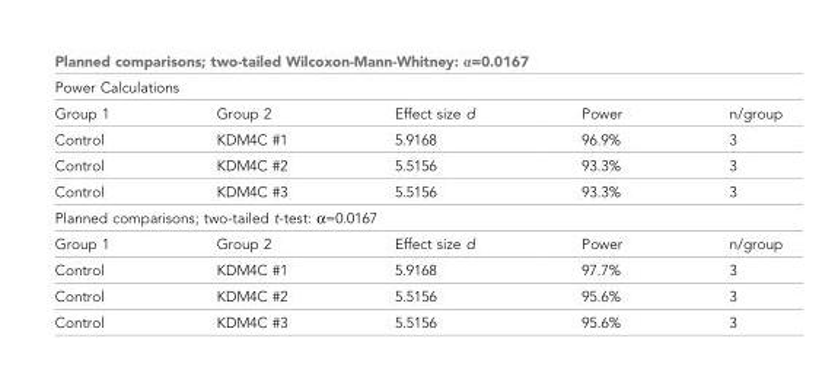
<table><thead><tr><td rowspan="2" colspan="5">Planned comparisons; two-tailed Wilcoxon-Mann-Whitney: α=0.0167 Power Calculations</td></tr><tr></tr><tr><td>Group 1</td><td>Group 2</td><td>Effect size d</td><td>Power</td><td>n/group</td></tr></thead><tbody><tr><td>Control</td><td>KDM4C #1</td><td>5.9168</td><td>96.9%</td><td>3</td></tr><tr><td>Control</td><td>KDM4C #2</td><td>5.5156</td><td>93.3%</td><td>3</td></tr><tr><td>Control</td><td>KDM4C #3</td><td>5.5156</td><td>93.3%</td><td>3</td></tr><tr><td colspan="5">Planned comparisons; two-tailed t-test: α=0.0167</td></tr><tr><td>Group 1</td><td>Group 2</td><td>Effect size d</td><td>Power</td><td>n/group</td></tr><tr><td>Control</td><td>KDM4C #1</td><td>5.9168</td><td>97.7%</td><td>3</td></tr><tr><td>Control</td><td>KDM4C #2</td><td>5.5156</td><td>95.6%</td><td>3</td></tr><tr><td>Control</td><td>KDM4C #3</td><td>5.5156</td><td>95.6%</td><td>3</td></tr></tbody></table>